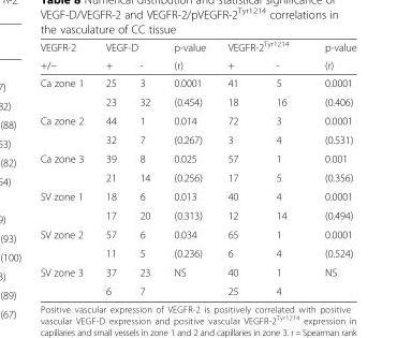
<table><thead><tr><td rowspan="2">VEGFR-2 +/−</td><td colspan="2">VEGF-D</td><td rowspan="2">p-value (r)</td><td colspan="2">VEGFR-2<sup>Tyr1214</sup></td><td rowspan="2">p-value (r)</td></tr><tr><td>+</td><td>-</td><td>+</td><td>-</td></tr></thead><tbody><tr><td rowspan="2">Ca zone 1</td><td>25</td><td>3</td><td>0.0001</td><td>41</td><td>5</td><td>0.0001</td></tr><tr><td>23</td><td>32</td><td>(0.454)</td><td>18</td><td>16</td><td>(0.406)</td></tr><tr><td rowspan="2">Ca zone 2</td><td>44</td><td>1</td><td>0.014</td><td>72</td><td>3</td><td>0.0001</td></tr><tr><td>32</td><td>7</td><td>(0.267)</td><td>3</td><td>4</td><td>(0.531)</td></tr><tr><td rowspan="2">Ca zone 3</td><td>39</td><td>8</td><td>0.025</td><td>57</td><td>1</td><td>0.001</td></tr><tr><td>21</td><td>14</td><td>(0.256)</td><td>17</td><td>5</td><td>(0.356)</td></tr><tr><td rowspan="2">SV zone 1</td><td>18</td><td>6</td><td>0.013</td><td>40</td><td>4</td><td>0.0001</td></tr><tr><td>17</td><td>20</td><td>(0.313)</td><td>12</td><td>14</td><td>(0.494)</td></tr><tr><td rowspan="2">SV zone 2</td><td>57</td><td>6</td><td>0.034</td><td>65</td><td>1</td><td>0.0001</td></tr><tr><td>11</td><td>5</td><td>(0.236)</td><td>6</td><td>4</td><td>(0.524)</td></tr><tr><td rowspan="2">SV zone 3</td><td>37</td><td>23</td><td rowspan="2">NS</td><td>40</td><td>1</td><td rowspan="2">NS</td></tr><tr><td>6</td><td>7</td><td>25</td><td>4</td></tr></tbody></table>